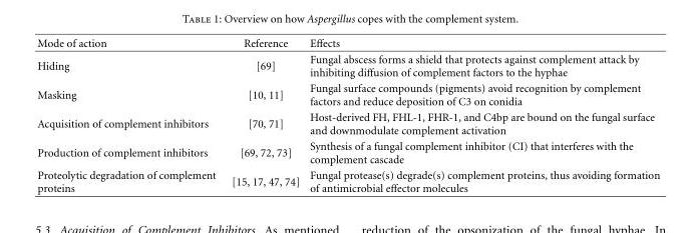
<table><thead><tr><td>Mode of action</td><td>Reference</td><td>Effects</td></tr></thead><tbody><tr><td>Hiding</td><td>[69]</td><td>Fungal abscess forms a shield that protects against complement attack by inhibiting diffusion of complement factors to the hyphae</td></tr><tr><td>Masking</td><td>[10, 11]</td><td>Fungal surface compounds (pigments) avoid recognition by complement factors and reduce deposition of C3 on conidia</td></tr><tr><td>Acquisition of complement inhibitors</td><td>[70, 71]</td><td>Host-derived FH, FHL-1, FHR-1, and C4bp are bound on the fungal surface and downmodulate complement activation</td></tr><tr><td>Production of complement inhibitors</td><td>[69, 72, 73]</td><td>Synthesis of a fungal complement inhibitor (CI) that interferes with the complement cascade</td></tr><tr><td>Proteolytic degradation of complement proteins</td><td>[15, 17, 47, 74]</td><td>Fungal protease(s) degrade(s) complement proteins, thus avoiding formation of antimicrobial effector molecules</td></tr></tbody></table>